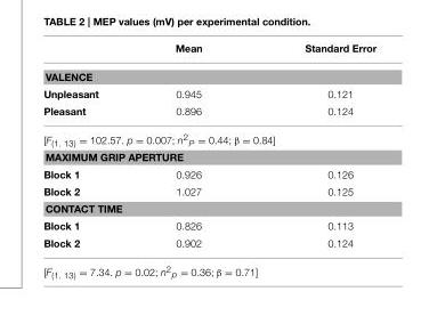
<table><thead><tr><td></td><td>Mean</td><td>Standard Error</td></tr></thead><tbody><tr><td colspan="3">VALENCE</td></tr><tr><td>Unpleasant</td><td>0.945</td><td>0.121</td></tr><tr><td>Pleasant</td><td>0.896</td><td>0.124</td></tr><tr><td colspan="3">[F<sub>(1. 13)</sub> = 102.57. p = 0.007; n<sup>2</sup><sub>P</sub> = 0.44; β = 0.84]</td></tr><tr><td colspan="3">MAXIMUM GRIP APERTURE</td></tr><tr><td>Block 1</td><td>0.926</td><td>0.126</td></tr><tr><td>Block 2</td><td>1.027</td><td>0.125</td></tr><tr><td colspan="3">CONTACT TIME</td></tr><tr><td>Block 1</td><td>0.826</td><td>0.113</td></tr><tr><td>Block 2</td><td>0.902</td><td>0.124</td></tr><tr><td colspan="3">[F<sub>(1. 13)</sub> = 7.34. p = 0.02; n<sup>2</sup><sub>p</sub> = 0.36; β = 0.71]</td></tr></tbody></table>